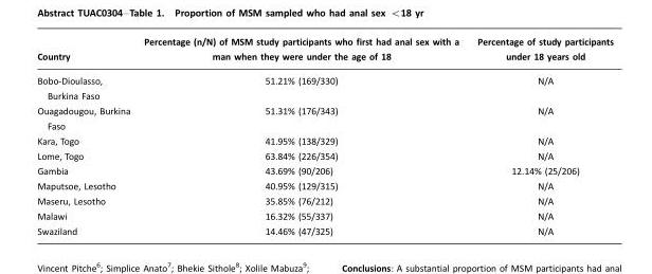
<table><thead><tr><td>Country</td><td>Percentage (n/N) of MSM study participants who first had anal sex with a man when they were under the age of 18</td><td>Percentage of study participants under 18 years old</td></tr></thead><tbody><tr><td>Bobo-Dioulasso, Burkina Faso</td><td>51.21% (169/330)</td><td>N/A</td></tr><tr><td>Ouagadougou, Burkina Faso</td><td>51.31% (176/343)</td><td>N/A</td></tr><tr><td>Kara, Togo</td><td>41.95% (138/329)</td><td>N/A</td></tr><tr><td>Lome, Togo</td><td>63.84% (226/354)</td><td>N/A</td></tr><tr><td>Gambia</td><td>43.69% (90/206)</td><td>12.14% (25/206)</td></tr><tr><td>Maputsoe, Lesotho</td><td>40.95% (129/315)</td><td>N/A</td></tr><tr><td>Maseru, Lesotho</td><td>35.85% (76/212)</td><td>N/A</td></tr><tr><td>Malawi</td><td>16.32% (55/337)</td><td>N/A</td></tr><tr><td>Swaziland</td><td>14.46% (47/325)</td><td>N/A</td></tr></tbody></table>